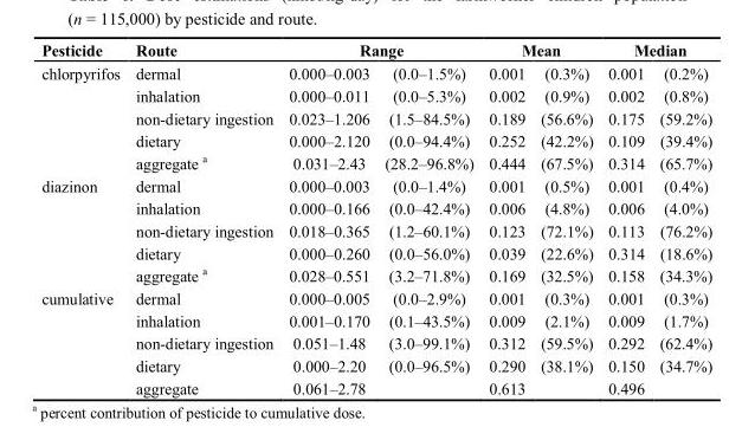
<table><thead><tr><td rowspan="2">Pesticide chlorpyrifos</td><td rowspan="2">Route dermal</td><td colspan="2">Range</td><td colspan="2">Mean</td><td colspan="2">Median</td></tr><tr><td>0.000–0.003</td><td>(0.0–1.5%)</td><td>0.001</td><td>(0.3%)</td><td>0.001</td><td>(0.2%)</td></tr></thead><tbody><tr><td></td><td>inhalation</td><td>0.000–0.011</td><td>(0.0–5.3%)</td><td>0.002</td><td>(0.9%)</td><td>0.002</td><td>(0.8%)</td></tr><tr><td></td><td>non-dietary ingestion</td><td>0.023–1.206</td><td>(1.5–84.5%)</td><td>0.189</td><td>(56.6%)</td><td>0.175</td><td>(59.2%)</td></tr><tr><td></td><td>dietary</td><td>0.000–2.120</td><td>(0.0–94.4%)</td><td>0.252</td><td>(42.2%)</td><td>0.109</td><td>(39.4%)</td></tr><tr><td></td><td>aggregate <sup>a</sup></td><td>0.031–2.43</td><td>(28.2–96.8%)</td><td>0.444</td><td>(67.5%)</td><td>0.314</td><td>(65.7%)</td></tr><tr><td rowspan="5">diazinon</td><td>dermal</td><td>0.000–0.003</td><td>(0.0–1.4%)</td><td>0.001</td><td>(0.5%)</td><td>0.001</td><td>(0.4%)</td></tr><tr><td>inhalation</td><td>0.000–0.166</td><td>(0.0–42.4%)</td><td>0.006</td><td>(4.8%)</td><td>0.006</td><td>(4.0%)</td></tr><tr><td>non-dietary ingestion</td><td>0.018–0.365</td><td>(1.2–60.1%)</td><td>0.123</td><td>(72.1%)</td><td>0.113</td><td>(76.2%)</td></tr><tr><td>dietary</td><td>0.000–0.260</td><td>(0.0–56.0%)</td><td>0.039</td><td>(22.6%)</td><td>0.314</td><td>(18.6%)</td></tr><tr><td>aggregate <sup>a</sup></td><td>0.028–0.551</td><td>(3.2–71.8%)</td><td>0.169</td><td>(32.5%)</td><td>0.158</td><td>(34.3%)</td></tr><tr><td rowspan="5">cumulative</td><td>dermal</td><td>0.000–0.005</td><td>(0.0–2.9%)</td><td>0.001</td><td>(0.3%)</td><td>0.001</td><td>(0.3%)</td></tr><tr><td>inhalation</td><td>0.001–0.170</td><td>(0.1–43.5%)</td><td>0.009</td><td>(2.1%)</td><td>0.009</td><td>(1.7%)</td></tr><tr><td>non-dietary ingestion</td><td>0.051–1.48</td><td>(3.0–99.1%)</td><td>0.312</td><td>(59.5%)</td><td>0.292</td><td>(62.4%)</td></tr><tr><td>dietary</td><td>0.000–2.20</td><td>(0.0–96.5%)</td><td>0.290</td><td>(38.1%)</td><td>0.150</td><td>(34.7%)</td></tr><tr><td>aggregate</td><td>0.061–2.78</td><td></td><td>0.613</td><td></td><td>0.496</td><td></td></tr></tbody></table>